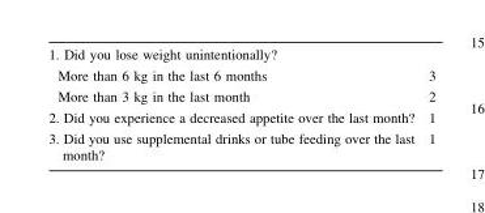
<table><tbody><tr><td colspan="2">1. Did you lose weight unintentionally?</td></tr><tr><td>More than 6 kg in the last 6 months</td><td>3</td></tr><tr><td>More than 3 kg in the last month</td><td>2</td></tr><tr><td>2. Did you experience a decreased appetite over the last month?</td><td>1</td></tr><tr><td>3. Did you use supplemental drinks or tube feeding over the last month?</td><td>1</td></tr></tbody></table>